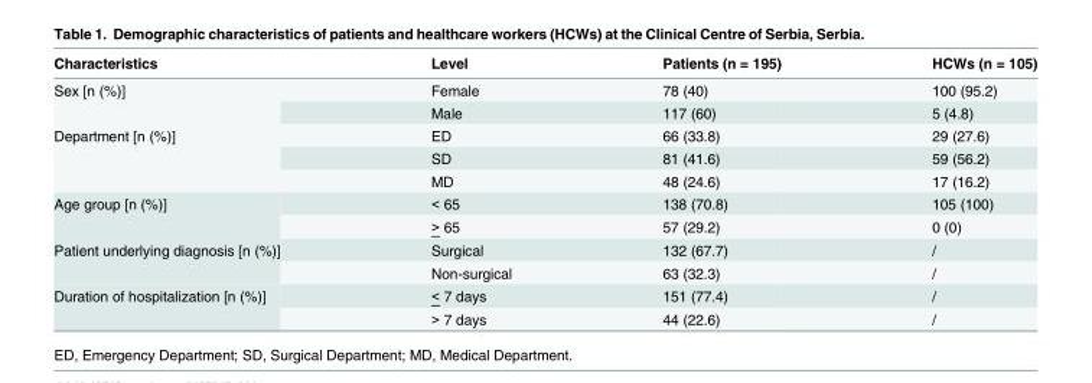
<table><thead><tr><td>Characteristics</td><td>Level</td><td>Patients (n = 195)</td><td>HCWs (n = 105)</td></tr></thead><tbody><tr><td rowspan="2">Sex [n (%)]</td><td>Female</td><td>78 (40)</td><td>100 (95.2)</td></tr><tr><td>Male</td><td>117 (60)</td><td>5 (4.8)</td></tr><tr><td rowspan="3">Department [n (%)]</td><td>ED</td><td>66 (33.8)</td><td>29 (27.6)</td></tr><tr><td>SD</td><td>81 (41.6)</td><td>59 (56.2)</td></tr><tr><td>MD</td><td>48 (24.6)</td><td>17 (16.2)</td></tr><tr><td rowspan="2">Age group [n (%)]</td><td>&lt; 65</td><td>138 (70.8)</td><td>105 (100)</td></tr><tr><td>&gt; 65</td><td>57 (29.2)</td><td>0 (0)</td></tr><tr><td rowspan="2">Patient underlying diagnosis [n (%)]</td><td>Surgical</td><td>132 (67.7)</td><td>/</td></tr><tr><td>Non-surgical</td><td>63 (32.3)</td><td>/</td></tr><tr><td rowspan="2">Duration of hospitalization [n (%)]</td><td>&lt; 7 days</td><td>151 (77.4)</td><td>/</td></tr><tr><td>&gt; 7 days</td><td>44 (22.6)</td><td>/</td></tr></tbody></table>